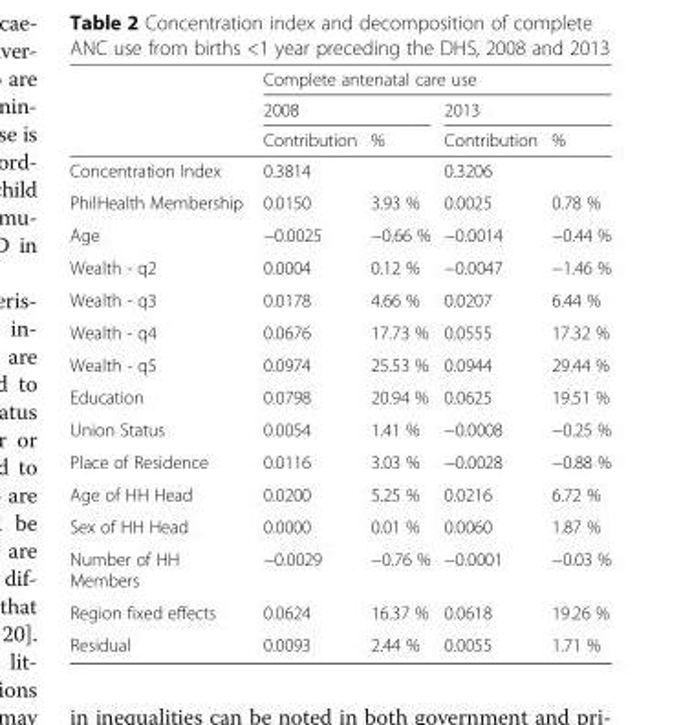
<table><thead><tr><td rowspan="3"></td><td colspan="4">Complete antenatal care use</td></tr><tr><td colspan="2">2008</td><td colspan="2">2013</td></tr><tr><td>Contribution</td><td>%</td><td>Contribution</td><td>%</td></tr></thead><tbody><tr><td>Concentration Index</td><td colspan="2">0.3814</td><td colspan="2">0.3206</td></tr><tr><td>PhilHealth Membership</td><td>0.0150</td><td>3.93 %</td><td>0.0025</td><td>0.78 %</td></tr><tr><td>Age</td><td>−0.0025</td><td>−0.66 %</td><td>−0.0014</td><td>−0.44 %</td></tr><tr><td>Wealth - q2</td><td>0.0004</td><td>0.12 %</td><td>−0.0047</td><td>−1.46 %</td></tr><tr><td>Wealth - q3</td><td>0.0178</td><td>4.66 %</td><td>0.0207</td><td>6.44 %</td></tr><tr><td>Wealth - q4</td><td>0.0676</td><td>17.73 %</td><td>0.0555</td><td>17.32 %</td></tr><tr><td>Wealth - q5</td><td>0.0974</td><td>25.53 %</td><td>0.0944</td><td>29.44 %</td></tr><tr><td>Education</td><td>0.0798</td><td>20.94 %</td><td>0.0625</td><td>19.51 %</td></tr><tr><td>Union Status</td><td>0.0054</td><td>1.41 %</td><td>−0.0008</td><td>−0.25 %</td></tr><tr><td>Place of Residence</td><td>0.0116</td><td>3.03 %</td><td>−0.0028</td><td>−0.88 %</td></tr><tr><td>Age of HH Head</td><td>0.0200</td><td>5.25 %</td><td>0.0216</td><td>6.72 %</td></tr><tr><td>Sex of HH Head</td><td>0.0000</td><td>0.01 %</td><td>0.0060</td><td>1.87 %</td></tr><tr><td>Number of HH Members</td><td>−0.0029</td><td>−0.76 %</td><td>−0.0001</td><td>−0.03 %</td></tr><tr><td>Region fixed effects</td><td>0.0624</td><td>16.37 %</td><td>0.0618</td><td>19.26 %</td></tr><tr><td>Residual</td><td>0.0093</td><td>2.44 %</td><td>0.0055</td><td>1.71 %</td></tr></tbody></table>